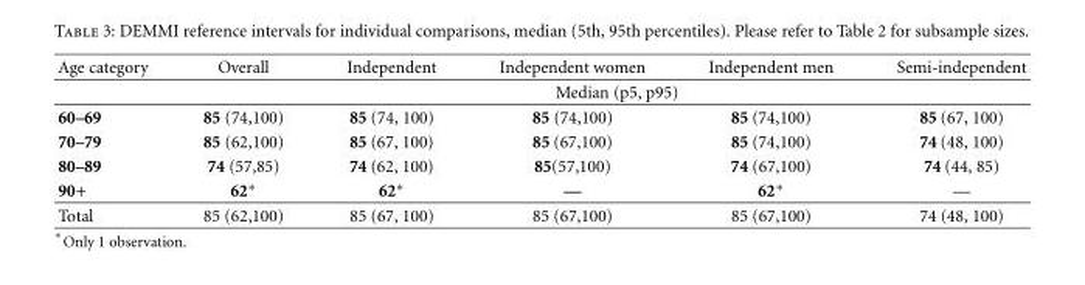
<table><thead><tr><td rowspan="2">Age category</td><td>Overall</td><td>Independent</td><td>Independent women</td><td>Independent men</td><td>Semi-independent</td></tr><tr><td colspan="5">Median (p5, p95)</td></tr></thead><tbody><tr><td>60–69</td><td>85 (74,100)</td><td>85 (74, 100)</td><td>85 (74,100)</td><td>85 (74,100)</td><td>85 (67, 100)</td></tr><tr><td>70–79</td><td>85 (62,100)</td><td>85 (67, 100)</td><td>85 (67,100)</td><td>85 (74,100)</td><td>74 (48, 100)</td></tr><tr><td>80–89</td><td>74 (57,85)</td><td>74 (62, 100)</td><td>85(57,100)</td><td>74 (67,100)</td><td>74 (44, 85)</td></tr><tr><td>90+</td><td>62∗</td><td>62∗</td><td>—</td><td>62∗</td><td>—</td></tr><tr><td>Total</td><td>85 (62,100)</td><td>85 (67, 100)</td><td>85 (67,100)</td><td>85 (67,100)</td><td>74 (48, 100)</td></tr></tbody></table>